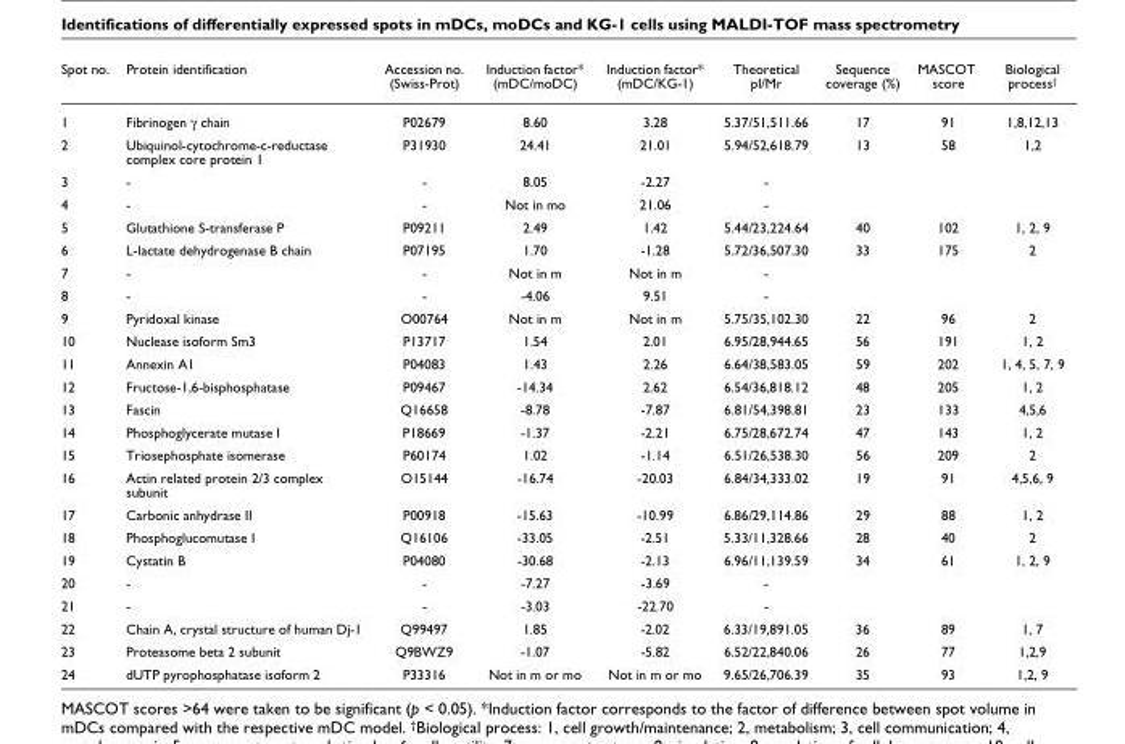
<table><thead><tr><td>Spot no.</td><td>Protein identification</td><td>Accession no. (Swiss-Prot)</td><td>Induction factor* (mDC/moDC)</td><td>Induction factor* (mDC/KG-1)</td><td>Theoretical pI/Mr</td><td>Sequence coverage (%)</td><td>MASCOT score</td><td>Biological process<sup>†</sup></td></tr></thead><tbody><tr><td>1</td><td>Fibrinogen γ chain</td><td>P02679</td><td>8.60</td><td>3.28</td><td>5.37/51,511.66</td><td>17</td><td>91</td><td>1,8,12,13</td></tr><tr><td>2</td><td>Ubiquinol-cytochrome-c-reductase complex core protein 1</td><td>P31930</td><td>24.41</td><td>21.01</td><td>5.94/52,618.79</td><td>13</td><td>58</td><td>1,2</td></tr><tr><td>3</td><td>-</td><td>-</td><td>8.05</td><td>-2.27</td><td>-</td><td></td><td></td><td></td></tr><tr><td>4</td><td>-</td><td>-</td><td>Not in mo</td><td>21.06</td><td>-</td><td></td><td></td><td></td></tr><tr><td>5</td><td>Glutathione S-transferase P</td><td>P09211</td><td>2.49</td><td>1.42</td><td>5.44/23,224.64</td><td>40</td><td>102</td><td>1, 2, 9</td></tr><tr><td>6</td><td>L-lactate dehydrogenase B chain</td><td>P07195</td><td>1.70</td><td>-1.28</td><td>5.72/36,507.30</td><td>33</td><td>175</td><td>2</td></tr><tr><td>7</td><td>-</td><td>-</td><td>Not in m</td><td>Not in m</td><td>-</td><td></td><td></td><td></td></tr><tr><td>8</td><td>-</td><td>-</td><td>-4.06</td><td>9.51</td><td>-</td><td></td><td></td><td></td></tr><tr><td>9</td><td>Pyridoxal kinase</td><td>O00764</td><td>Not in m</td><td>Not in m</td><td>5.75/35,102.30</td><td>22</td><td>96</td><td>2</td></tr><tr><td>10</td><td>Nuclease isoform Sm3</td><td>P13717</td><td>1.54</td><td>2.01</td><td>6.95/28,944.65</td><td>56</td><td>191</td><td>1, 2</td></tr><tr><td>11</td><td>Annexin A1</td><td>P04083</td><td>1.43</td><td>2.26</td><td>6.64/38,583.05</td><td>59</td><td>202</td><td>1, 4, 5, 7, 9</td></tr><tr><td>12</td><td>Fructose-1,6-bisphosphatase</td><td>P09467</td><td>-14.34</td><td>2.62</td><td>6.54/36,818.12</td><td>48</td><td>205</td><td>1, 2</td></tr><tr><td>13</td><td>Fascin</td><td>Q16658</td><td>-8.78</td><td>-7.87</td><td>6.81/54,398.81</td><td>23</td><td>133</td><td>4,5,6</td></tr><tr><td>14</td><td>Phosphoglycerate mutase I</td><td>P18669</td><td>-1.37</td><td>-2.21</td><td>6.75/28,672.74</td><td>47</td><td>143</td><td>1, 2</td></tr><tr><td>15</td><td>Triosephosphate isomerase</td><td>P60174</td><td>1.02</td><td>-1.14</td><td>6.51/26,538.30</td><td>56</td><td>209</td><td>2</td></tr><tr><td>16</td><td>Actin related protein 2/3 complex subunit</td><td>O15144</td><td>-16.74</td><td>-20.03</td><td>6.84/34,333.02</td><td>19</td><td>91</td><td>4,5,6, 9</td></tr><tr><td>17</td><td>Carbonic anhydrase II</td><td>P00918</td><td>-15.63</td><td>-10.99</td><td>6.86/29,114.86</td><td>29</td><td>88</td><td>1, 2</td></tr><tr><td>18</td><td>Phosphoglucomutase I</td><td>Q16106</td><td>-33.05</td><td>-2.51</td><td>5.33/11,328.66</td><td>28</td><td>40</td><td>2</td></tr><tr><td>19</td><td>Cystatin B</td><td>P04080</td><td>-30.68</td><td>-2.13</td><td>6.96/11,139.59</td><td>34</td><td>61</td><td>1, 2, 9</td></tr><tr><td>20</td><td>-</td><td>-</td><td>-7.27</td><td>-3.69</td><td>-</td><td></td><td></td><td></td></tr><tr><td>21</td><td>-</td><td>-</td><td>-3.03</td><td>-22.70</td><td>-</td><td></td><td></td><td></td></tr><tr><td>22</td><td>Chain A, crystal structure of human Dj-1</td><td>Q99497</td><td>1.85</td><td>-2.02</td><td>6.33/19,891.05</td><td>36</td><td>89</td><td>1, 7</td></tr><tr><td>23</td><td>Proteasome beta 2 subunit</td><td>Q9BWZ9</td><td>-1.07</td><td>-5.82</td><td>6.52/22,840.06</td><td>26</td><td>77</td><td>1,2,9</td></tr><tr><td>24</td><td>dUTP pyrophosphatase isoform 2</td><td>P33316</td><td>Not in m or mo</td><td>Not in m or mo</td><td>9.65/26,706.39</td><td>35</td><td>93</td><td>1,2, 9</td></tr></tbody></table>